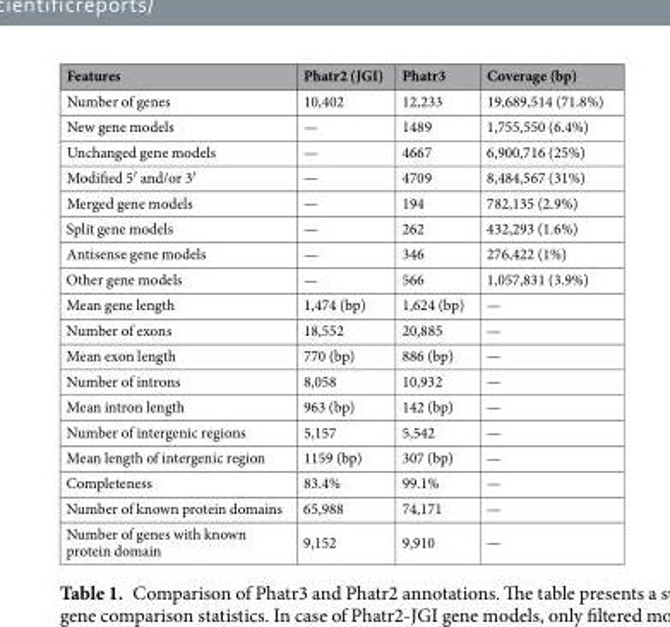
<table><thead><tr><td>Features</td><td>Phatr2 (JGI)</td><td>Phatr3</td><td>Coverage (bp)</td></tr></thead><tbody><tr><td>Number of genes</td><td>10,402</td><td>12,233</td><td>19,689,514 (71.8%)</td></tr><tr><td>New gene models</td><td>—</td><td>1489</td><td>1,755,550 (6.4%)</td></tr><tr><td>Unchanged gene models</td><td>—</td><td>4667</td><td>6,900,716 (25%)</td></tr><tr><td>Modified 5′ and/or 3′</td><td>—</td><td>4709</td><td>8,484,567 (31%)</td></tr><tr><td>Merged gene models</td><td>—</td><td>194</td><td>782,135 (2.9%)</td></tr><tr><td>Split gene models</td><td>—</td><td>262</td><td>432,293 (1.6%)</td></tr><tr><td>Antisense gene models</td><td>—</td><td>346</td><td>276,422 (1%)</td></tr><tr><td>Other gene models</td><td>—</td><td>566</td><td>1,057,831 (3.9%)</td></tr><tr><td>Mean gene length</td><td>1,474 (bp)</td><td>1,624 (bp)</td><td>—</td></tr><tr><td>Number of exons</td><td>18,552</td><td>20,885</td><td>—</td></tr><tr><td>Mean exon length</td><td>770 (bp)</td><td>886 (bp)</td><td>—</td></tr><tr><td>Number of introns</td><td>8,058</td><td>10,932</td><td>—</td></tr><tr><td>Mean intron length</td><td>963 (bp)</td><td>142 (bp)</td><td>—</td></tr><tr><td>Number of intergenic regions</td><td>5,157</td><td>5,542</td><td>—</td></tr><tr><td>Mean length of intergenic region</td><td>1159 (bp)</td><td>307 (bp)</td><td>—</td></tr><tr><td>Completeness</td><td>83.4%</td><td>99.1%</td><td>—</td></tr><tr><td>Number of known protein domains</td><td>65,988</td><td>74,171</td><td>—</td></tr><tr><td>Number of genes with known protein domain</td><td>9,152</td><td>9,910</td><td>—</td></tr></tbody></table>